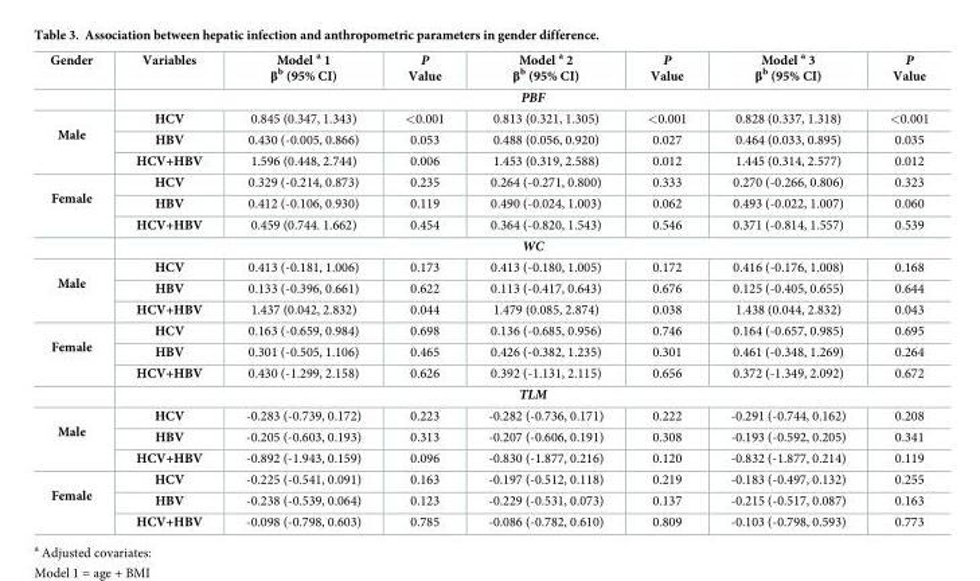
<table><thead><tr><td>Gender</td><td>Variables</td><td>Model <sup>a</sup> 1 β<sup>b</sup> (95% CI)</td><td>P Value</td><td>Model <sup>a</sup> 2 β<sup>b</sup> (95% CI)</td><td>P Value</td><td>Model <sup>a</sup> 3 β<sup>b</sup> (95% CI)</td><td>P Value</td></tr></thead><tbody><tr><td></td><td colspan="7">PBF</td></tr><tr><td rowspan="3">Male</td><td>HCV</td><td>0.845 (0.347, 1.343)</td><td>&lt;0.001</td><td>0.813 (0.321, 1.305)</td><td>&lt;0.001</td><td>0.828 (0.337, 1.318)</td><td>&lt;0.001</td></tr><tr><td>HBV</td><td>0.430 (-0.005, 0.866)</td><td>0.053</td><td>0.488 (0.056, 0.920)</td><td>0.027</td><td>0.464 (0.033, 0.895)</td><td>0.035</td></tr><tr><td>HCV+HBV</td><td>1.596 (0.448, 2.744)</td><td>0.006</td><td>1.453 (0.319, 2.588)</td><td>0.012</td><td>1.445 (0.314, 2.577)</td><td>0.012</td></tr><tr><td rowspan="4">Female</td><td>HCV</td><td>0.329 (-0.214, 0.873)</td><td>0.235</td><td>0.264 (-0.271, 0.800)</td><td>0.333</td><td>0.270 (-0.266, 0.806)</td><td>0.323</td></tr><tr><td>HBV</td><td>0.412 (-0.106, 0.930)</td><td>0.119</td><td>0.490 (-0.024, 1.003)</td><td>0.062</td><td>0.493 (-0.022, 1.007)</td><td>0.060</td></tr><tr><td>HCV+HBV</td><td>0.459 (0.744. 1.662)</td><td>0.454</td><td>0.364 (-0.820, 1.543)</td><td>0.546</td><td>0.371 (-0.814, 1.557)</td><td>0.539</td></tr><tr><td colspan="7">WC</td></tr><tr><td rowspan="3">Male</td><td>HCV</td><td>0.413 (-0.181, 1.006)</td><td>0.173</td><td>0.413 (-0.180, 1.005)</td><td>0.172</td><td>0.416 (-0.176, 1.008)</td><td>0.168</td></tr><tr><td>HBV</td><td>0.133 (-0.396, 0.661)</td><td>0.622</td><td>0.113 (-0.417, 0.643)</td><td>0.676</td><td>0.125 (-0.405, 0.655)</td><td>0.644</td></tr><tr><td>HCV+HBV</td><td>1.437 (0.042, 2.832)</td><td>0.044</td><td>1.479 (0.085, 2.874)</td><td>0.038</td><td>1.438 (0.044, 2.832)</td><td>0.043</td></tr><tr><td rowspan="4">Female</td><td>HCV</td><td>0.163 (-0.659, 0.984)</td><td>0.698</td><td>0.136 (-0.685, 0.956)</td><td>0.746</td><td>0.164 (-0.657, 0.985)</td><td>0.695</td></tr><tr><td>HBV</td><td>0.301 (-0.505, 1.106)</td><td>0.465</td><td>0.426 (-0.382, 1.235)</td><td>0.301</td><td>0.461 (-0.348, 1.269)</td><td>0.264</td></tr><tr><td>HCV+HBV</td><td>0.430 (-1.299, 2.158)</td><td>0.626</td><td>0.392 (-1.131, 2.115)</td><td>0.656</td><td>0.372 (-1.349, 2.092)</td><td>0.672</td></tr><tr><td colspan="7">TLM</td></tr><tr><td rowspan="3">Male</td><td>HCV</td><td>-0.283 (-0.739, 0.172)</td><td>0.223</td><td>-0.282 (-0.736, 0.171)</td><td>0.222</td><td>-0.291 (-0.744, 0.162)</td><td>0.208</td></tr><tr><td>HBV</td><td>-0.205 (-0.603, 0.193)</td><td>0.313</td><td>-0.207 (-0.606, 0.191)</td><td>0.308</td><td>-0.193 (-0.592, 0.205)</td><td>0.341</td></tr><tr><td>HCV+HBV</td><td>-0.892 (-1.943, 0.159)</td><td>0.096</td><td>-0.830 (-1.877, 0.216)</td><td>0.120</td><td>-0.832 (-1.877, 0.214)</td><td>0.119</td></tr><tr><td rowspan="3">Female</td><td>HCV</td><td>-0.225 (-0.541, 0.091)</td><td>0.163</td><td>-0.197 (-0.512, 0.118)</td><td>0.219</td><td>-0.183 (-0.497, 0.132)</td><td>0.255</td></tr><tr><td>HBV</td><td>-0.238 (-0.539, 0.064)</td><td>0.123</td><td>-0.229 (-0.531, 0.073)</td><td>0.137</td><td>-0.215 (-0.517, 0.087)</td><td>0.163</td></tr><tr><td>HCV+HBV</td><td>-0.098 (-0.798, 0.603)</td><td>0.785</td><td>-0.086 (-0.782, 0.610)</td><td>0.809</td><td>-0.103 (-0.798, 0.593)</td><td>0.773</td></tr></tbody></table>